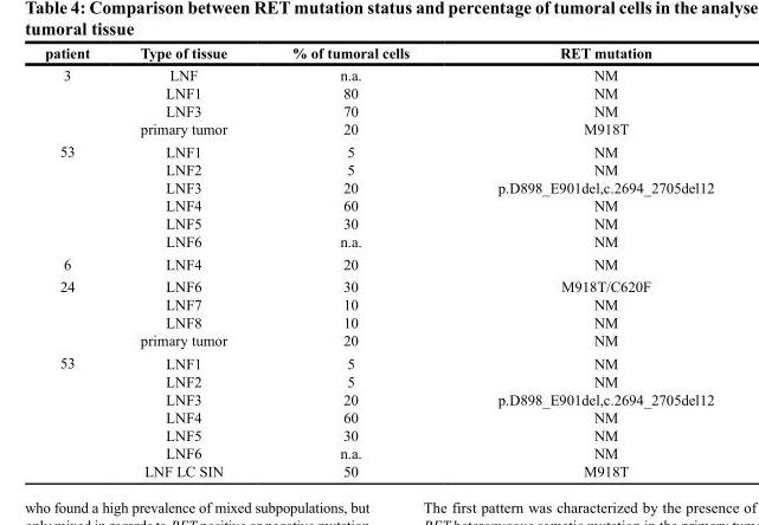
<table><thead><tr><td>patient</td><td>Type of tissue</td><td>% of tumoral cells</td><td>RET mutation</td></tr></thead><tbody><tr><td>3</td><td>LNF LNF1 LNF3 primary tumor</td><td>n.a. 80 70 20</td><td>NM NM NM M918T</td></tr><tr><td>53</td><td>LNF1 LNF2 LNF3 LNF4 LNF5 LNF6</td><td>5 5 20 60 30 n.a.</td><td>NM NM p.D898_E901del,c.2694_2705del12 NM NM NM</td></tr><tr><td>6</td><td>LNF4</td><td>20</td><td>NM</td></tr><tr><td>24</td><td>LNF6 LNF7 LNF8 primary tumor</td><td>30 10 10 20</td><td>M918T/C620F NM NM NM</td></tr><tr><td>53</td><td>LNF1 LNF2 LNF3 LNF4 LNF5 LNF6 LNF LC SIN</td><td>5 5 20 60 30 n.a. 50</td><td>NM NM p.D898_E901del,c.2694_2705del12 NM NM NM M918T</td></tr></tbody></table>